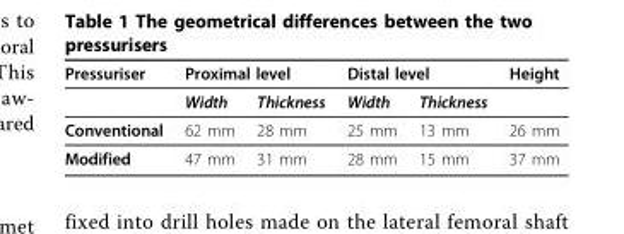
<table><thead><tr><td rowspan="2">Pressuriser</td><td colspan="2">Proximal level</td><td colspan="2">Distal level</td><td rowspan="2">Height</td></tr><tr><td>Width</td><td>Thickness</td><td>Width</td><td>Thickness</td></tr></thead><tbody><tr><td>Conventional</td><td>62 mm</td><td>28 mm</td><td>25 mm</td><td>13 mm</td><td>26 mm</td></tr><tr><td>Modified</td><td>47 mm</td><td>31 mm</td><td>28 mm</td><td>15 mm</td><td>37 mm</td></tr></tbody></table>